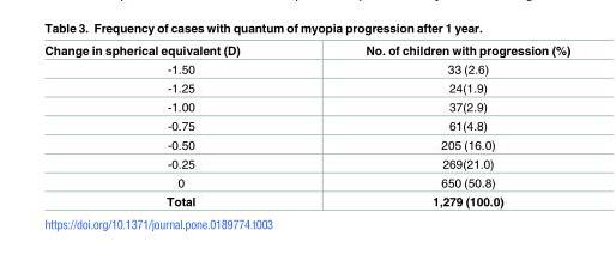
<table><thead><tr><td>Change in spherical equivalent (D)</td><td>No. of children with progression (%)</td></tr></thead><tbody><tr><td>-1.50</td><td>33 (2.6)</td></tr><tr><td>-1.25</td><td>24(1.9)</td></tr><tr><td>-1.00</td><td>37(2.9)</td></tr><tr><td>-0.75</td><td>61(4.8)</td></tr><tr><td>-0.50</td><td>205 (16.0)</td></tr><tr><td>-0.25</td><td>269(21.0)</td></tr><tr><td>0</td><td>650 (50.8)</td></tr><tr><td>Total</td><td>1,279 (100.0)</td></tr></tbody></table>